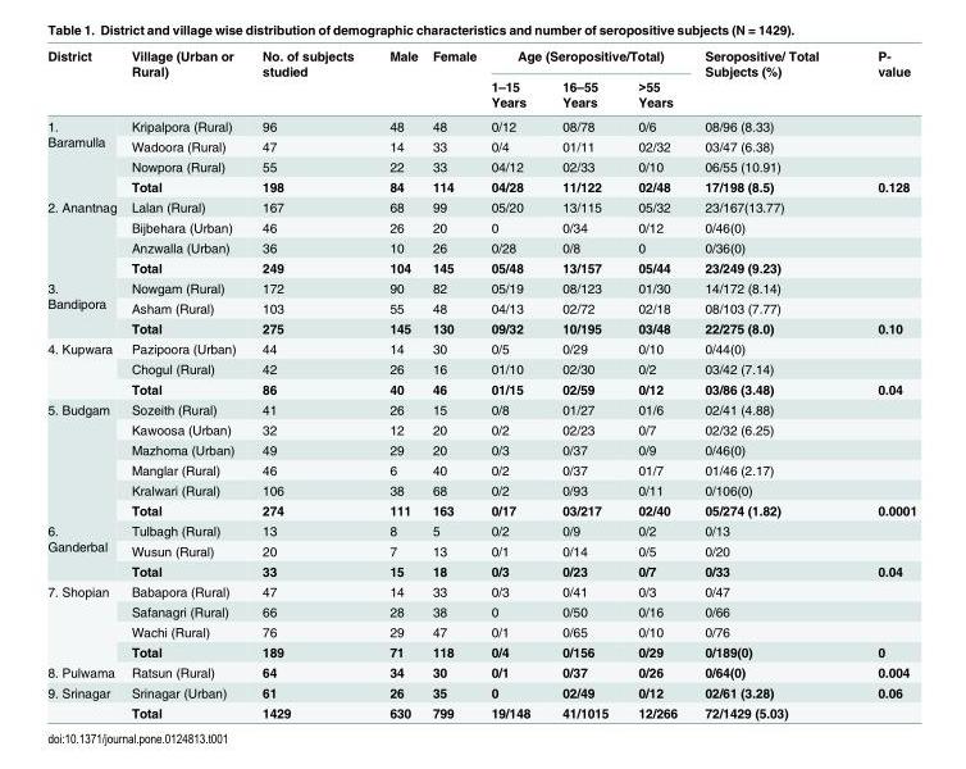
<table><thead><tr><td rowspan="2">District</td><td rowspan="2">Village (Urban or Rural)</td><td rowspan="2">No. of subjects studied</td><td rowspan="2">Male</td><td rowspan="2">Female</td><td colspan="3">Age (Seropositive/Total)</td><td rowspan="2">Seropositive/ Total Subjects (%)</td><td rowspan="2">P- value</td></tr><tr><td>1–15 Years</td><td>16–55 Years</td><td>&gt;55 Years</td></tr></thead><tbody><tr><td rowspan="4">1. Baramulla</td><td>Kripalpora (Rural)</td><td>96</td><td>48</td><td>48</td><td>0/12</td><td>08/78</td><td>0/6</td><td>08/96 (8.33)</td><td></td></tr><tr><td>Wadoora (Rural)</td><td>47</td><td>14</td><td>33</td><td>0/4</td><td>01/11</td><td>02/32</td><td>03/47 (6.38)</td><td></td></tr><tr><td>Nowpora (Rural)</td><td>55</td><td>22</td><td>33</td><td>04/12</td><td>02/33</td><td>0/10</td><td>06/55 (10.91)</td><td></td></tr><tr><td>Total</td><td>198</td><td>84</td><td>114</td><td>04/28</td><td>11/122</td><td>02/48</td><td>17/198 (8.5)</td><td>0.128</td></tr><tr><td rowspan="4">2. Anantnag</td><td>Lalan (Rural)</td><td>167</td><td>68</td><td>99</td><td>05/20</td><td>13/115</td><td>05/32</td><td>23/167(13.77)</td><td></td></tr><tr><td>Bijbehara (Urban)</td><td>46</td><td>26</td><td>20</td><td>0</td><td>0/34</td><td>0/12</td><td>0/46(0)</td><td></td></tr><tr><td>Anzwalla (Urban)</td><td>36</td><td>10</td><td>26</td><td>0/28</td><td>0/8</td><td>0</td><td>0/36(0)</td><td></td></tr><tr><td>Total</td><td>249</td><td>104</td><td>145</td><td>05/48</td><td>13/157</td><td>05/44</td><td>23/249 (9.23)</td><td></td></tr><tr><td rowspan="3">3. Bandipora</td><td>Nowgam (Rural)</td><td>172</td><td>90</td><td>82</td><td>05/19</td><td>08/123</td><td>01/30</td><td>14/172 (8.14)</td><td></td></tr><tr><td>Asham (Rural)</td><td>103</td><td>55</td><td>48</td><td>04/13</td><td>02/72</td><td>02/18</td><td>08/103 (7.77)</td><td></td></tr><tr><td>Total</td><td>275</td><td>145</td><td>130</td><td>09/32</td><td>10/195</td><td>03/48</td><td>22/275 (8.0)</td><td>0.10</td></tr><tr><td rowspan="3">4. Kupwara</td><td>Pazipoora (Urban)</td><td>44</td><td>14</td><td>30</td><td>0/5</td><td>0/29</td><td>0/10</td><td>0/44(0)</td><td></td></tr><tr><td>Chogul (Rural)</td><td>42</td><td>26</td><td>16</td><td>01/10</td><td>02/30</td><td>0/2</td><td>03/42 (7.14)</td><td></td></tr><tr><td>Total</td><td>86</td><td>40</td><td>46</td><td>01/15</td><td>02/59</td><td>0/12</td><td>03/86 (3.48)</td><td>0.04</td></tr><tr><td rowspan="6">5. Budgam</td><td>Sozeith (Rural)</td><td>41</td><td>26</td><td>15</td><td>0/8</td><td>01/27</td><td>01/6</td><td>02/41 (4.88)</td><td></td></tr><tr><td>Kawoosa (Urban)</td><td>32</td><td>12</td><td>20</td><td>0/2</td><td>02/23</td><td>0/7</td><td>02/32 (6.25)</td><td></td></tr><tr><td>Mazhoma (Urban)</td><td>49</td><td>29</td><td>20</td><td>0/3</td><td>0/37</td><td>0/9</td><td>0/46(0)</td><td></td></tr><tr><td>Manglar (Rural)</td><td>46</td><td>6</td><td>40</td><td>0/2</td><td>0/37</td><td>01/7</td><td>01/46 (2.17)</td><td></td></tr><tr><td>Kralwari (Rural)</td><td>106</td><td>38</td><td>68</td><td>0/2</td><td>0/93</td><td>0/11</td><td>0/106(0)</td><td></td></tr><tr><td>Total</td><td>274</td><td>111</td><td>163</td><td>0/17</td><td>03/217</td><td>02/40</td><td>05/274 (1.82)</td><td>0.0001</td></tr><tr><td rowspan="3">6. Ganderbal</td><td>Tulbagh (Rural)</td><td>13</td><td>8</td><td>5</td><td>0/2</td><td>0/9</td><td>0/2</td><td>0/13</td><td></td></tr><tr><td>Wusun (Rural)</td><td>20</td><td>7</td><td>13</td><td>0/1</td><td>0/14</td><td>0/5</td><td>0/20</td><td></td></tr><tr><td>Total</td><td>33</td><td>15</td><td>18</td><td>0/3</td><td>0/23</td><td>0/7</td><td>0/33</td><td>0.04</td></tr><tr><td rowspan="4">7. Shopian</td><td>Babapora (Rural)</td><td>47</td><td>14</td><td>33</td><td>0/3</td><td>0/41</td><td>0/3</td><td>0/47</td><td></td></tr><tr><td>Safanagri (Rural)</td><td>66</td><td>28</td><td>38</td><td>0</td><td>0/50</td><td>0/16</td><td>0/66</td><td></td></tr><tr><td>Wachi (Rural)</td><td>76</td><td>29</td><td>47</td><td>0/1</td><td>0/65</td><td>0/10</td><td>0/76</td><td></td></tr><tr><td>Total</td><td>189</td><td>71</td><td>118</td><td>0/4</td><td>0/156</td><td>0/29</td><td>0/189(0)</td><td>0</td></tr><tr><td>8. Pulwama</td><td>Ratsun (Rural)</td><td>64</td><td>34</td><td>30</td><td>0/1</td><td>0/37</td><td>0/26</td><td>0/64(0)</td><td>0.004</td></tr><tr><td rowspan="2">9. Srinagar</td><td>Srinagar (Urban)</td><td>61</td><td>26</td><td>35</td><td>0</td><td>02/49</td><td>0/12</td><td>02/61 (3.28)</td><td>0.06</td></tr><tr><td>Total</td><td>1429</td><td>630</td><td>799</td><td>19/148</td><td>41/1015</td><td>12/266</td><td>72/1429 (5.03)</td><td></td></tr></tbody></table>